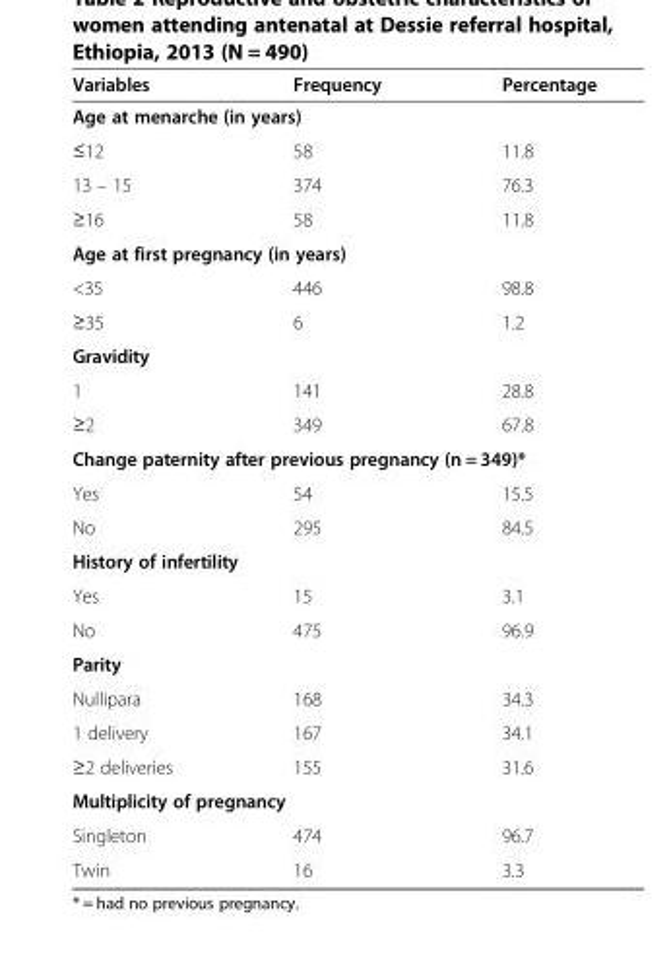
<table><thead><tr><td>Variables</td><td>Frequency</td><td>Percentage</td></tr></thead><tbody><tr><td colspan="3">Age at menarche (in years)</td></tr><tr><td>≤12</td><td>58</td><td>11.8</td></tr><tr><td>13 – 15</td><td>374</td><td>76.3</td></tr><tr><td>≥16</td><td>58</td><td>11.8</td></tr><tr><td colspan="3">Age at first pregnancy (in years)</td></tr><tr><td>&lt;35</td><td>446</td><td>98.8</td></tr><tr><td>≥35</td><td>6</td><td>1.2</td></tr><tr><td colspan="3">Gravidity</td></tr><tr><td>1</td><td>141</td><td>28.8</td></tr><tr><td>≥2</td><td>349</td><td>67.8</td></tr><tr><td colspan="3">Change paternity after previous pregnancy (n = 349)*</td></tr><tr><td>Yes</td><td>54</td><td>15.5</td></tr><tr><td>No</td><td>295</td><td>84.5</td></tr><tr><td colspan="3">History of infertility</td></tr><tr><td>Yes</td><td>15</td><td>3.1</td></tr><tr><td>No</td><td>475</td><td>96.9</td></tr><tr><td colspan="3">Parity</td></tr><tr><td>Nullipara</td><td>168</td><td>34.3</td></tr><tr><td>1 delivery</td><td>167</td><td>34.1</td></tr><tr><td>≥2 deliveries</td><td>155</td><td>31.6</td></tr><tr><td colspan="3">Multiplicity of pregnancy</td></tr><tr><td>Singleton</td><td>474</td><td>96.7</td></tr><tr><td>Twin</td><td>16</td><td>3.3</td></tr></tbody></table>